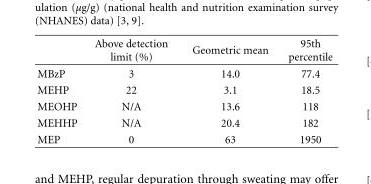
<table><thead><tr><td></td><td>Above detection limit (%)</td><td>Geometric mean</td><td>95th percentile</td></tr></thead><tbody><tr><td>MBzP</td><td>3</td><td>14.0</td><td>77.4</td></tr><tr><td>MEHP</td><td>22</td><td>3.1</td><td>18.5</td></tr><tr><td>MEOHP</td><td>N/A</td><td>13.6</td><td>118</td></tr><tr><td>MEHHP</td><td>N/A</td><td>20.4</td><td>182</td></tr><tr><td>MEP</td><td>0</td><td>63</td><td>1950</td></tr></tbody></table>